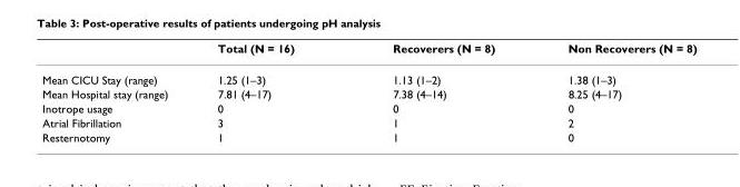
<table><thead><tr><td></td><td>Total (N = 16)</td><td>Recoverers (N = 8)</td><td>Non Recoverers (N = 8)</td></tr></thead><tbody><tr><td>Mean CICU Stay (range)</td><td>1.25 (1–3)</td><td>1.13 (1–2)</td><td>1.38 (1–3)</td></tr><tr><td>Mean Hospital stay (range)</td><td>7.81 (4–17)</td><td>7.38 (4–14)</td><td>8.25 (4–17)</td></tr><tr><td>Inotrope usage</td><td>0</td><td>0</td><td>0</td></tr><tr><td>Atrial Fibrillation</td><td>3</td><td>1</td><td>2</td></tr><tr><td>Resternotomy</td><td>1</td><td>1</td><td>0</td></tr></tbody></table>